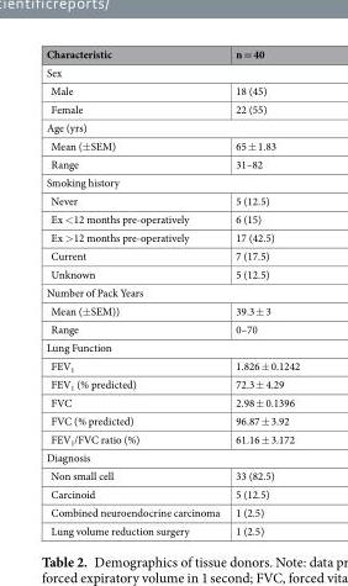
<table><thead><tr><td>Characteristic</td><td>n = 40</td></tr></thead><tbody><tr><td colspan="2">Sex</td></tr><tr><td>Male</td><td>18 (45)</td></tr><tr><td>Female</td><td>22 (55)</td></tr><tr><td colspan="2">Age (yrs)</td></tr><tr><td>Mean (±SEM)</td><td>65 ± 1.83</td></tr><tr><td>Range</td><td>31–82</td></tr><tr><td colspan="2">Smoking history</td></tr><tr><td>Never</td><td>5 (12.5)</td></tr><tr><td>Ex &lt;12 months pre-operatively</td><td>6 (15)</td></tr><tr><td>Ex &gt;12 months pre-operatively</td><td>17 (42.5)</td></tr><tr><td>Current</td><td>7 (17.5)</td></tr><tr><td>Unknown</td><td>5 (12.5)</td></tr><tr><td colspan="2">Number of Pack Years</td></tr><tr><td>Mean (±SEM))</td><td>39.3 ± 3</td></tr><tr><td>Range</td><td>0–70</td></tr><tr><td colspan="2">Lung Function</td></tr><tr><td>FEV<sub>1</sub></td><td>1.826 ± 0.1242</td></tr><tr><td>FEV<sub>1</sub> (% predicted)</td><td>72.3 ± 4.29</td></tr><tr><td>FVC</td><td>2.98 ± 0.1396</td></tr><tr><td>FVC (% predicted)</td><td>96.87 ± 3.92</td></tr><tr><td>FEV<sub>1</sub>/FVC ratio (%)</td><td>61.16 ± 3.172</td></tr><tr><td colspan="2">Diagnosis</td></tr><tr><td>Non small cell</td><td>33 (82.5)</td></tr><tr><td>Carcinoid</td><td>5 (12.5)</td></tr><tr><td>Combined neuroendocrine carcinoma</td><td>1 (2.5)</td></tr><tr><td>Lung volume reduction surgery</td><td>1 (2.5)</td></tr></tbody></table>